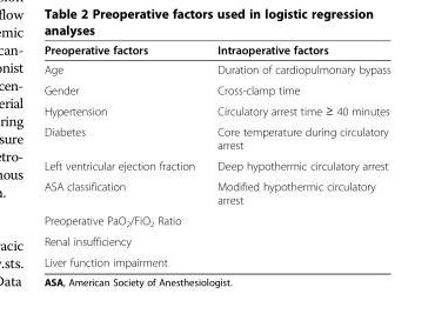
<table><thead><tr><td>Preoperative factors</td><td>Intraoperative factors</td></tr></thead><tbody><tr><td>Age</td><td>Duration of cardiopulmonary bypass</td></tr><tr><td>Gender</td><td>Cross-clamp time</td></tr><tr><td>Hypertension</td><td>Circulatory arrest time ≥ 40 minutes</td></tr><tr><td>Diabetes</td><td>Core temperature during circulatory arrest</td></tr><tr><td>Left ventricular ejection fraction</td><td>Deep hypothermic circulatory arrest</td></tr><tr><td>ASA classification</td><td>Modified hypothermic circulatory arrest</td></tr><tr><td colspan="2">Preoperative PaO<sub>2</sub>/FiO<sub>2</sub> Ratio</td></tr><tr><td colspan="2">Renal insufficiency</td></tr><tr><td>Liver function impairment</td><td></td></tr></tbody></table>